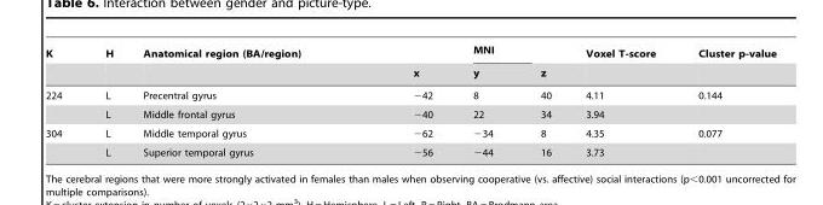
<table><thead><tr><td rowspan="2">K</td><td rowspan="2">H</td><td rowspan="2">Anatomical region (BA/region)</td><td rowspan="2">x</td><td rowspan="2">MNI y</td><td rowspan="2">z</td><td rowspan="2">Voxel T-score</td><td rowspan="2">Cluster p-value</td></tr><tr></tr></thead><tbody><tr><td rowspan="2">224</td><td>L</td><td>Precentral gyrus</td><td>−42</td><td>8</td><td>40</td><td>4.11</td><td>0.144</td></tr><tr><td>L</td><td>Middle frontal gyrus</td><td>−40</td><td>22</td><td>34</td><td>3.94</td><td></td></tr><tr><td rowspan="2">304</td><td>L</td><td>Middle temporal gyrus</td><td>−62</td><td>−34</td><td>8</td><td>4.35</td><td>0.077</td></tr><tr><td>L</td><td>Superior temporal gyrus</td><td>−56</td><td>−44</td><td>16</td><td>3.73</td><td></td></tr></tbody></table>